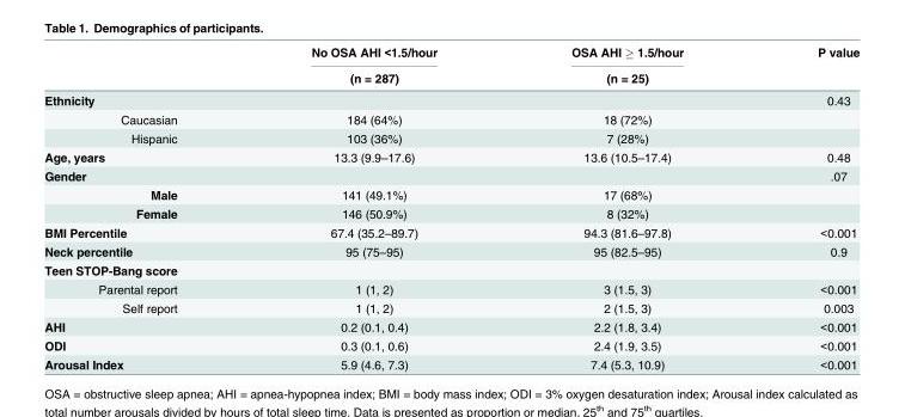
<table><thead><tr><td rowspan="2"></td><td rowspan="2">No OSA AHI &lt;1.5/hour (n = 287)</td><td rowspan="2">OSA AHI ≥ 1.5/hour (n = 25)</td><td rowspan="2">P value</td></tr><tr></tr></thead><tbody><tr><td>Ethnicity</td><td></td><td></td><td>0.43</td></tr><tr><td>Caucasian</td><td>184 (64%)</td><td>18 (72%)</td><td></td></tr><tr><td>Hispanic</td><td>103 (36%)</td><td>7 (28%)</td><td></td></tr><tr><td>Age, years</td><td>13.3 (9.9–17.6)</td><td>13.6 (10.5–17.4)</td><td>0.48</td></tr><tr><td>Gender</td><td></td><td></td><td>.07</td></tr><tr><td>Male</td><td>141 (49.1%)</td><td>17 (68%)</td><td></td></tr><tr><td>Female</td><td>146 (50.9%)</td><td>8 (32%)</td><td></td></tr><tr><td>BMI Percentile</td><td>67.4 (35.2–89.7)</td><td>94.3 (81.6–97.8)</td><td>&lt;0.001</td></tr><tr><td>Neck percentile</td><td>95 (75–95)</td><td>95 (82.5–95)</td><td>0.9</td></tr><tr><td colspan="4">Teen STOP-Bang score</td></tr><tr><td>Parental report</td><td>1 (1, 2)</td><td>3 (1.5, 3)</td><td>&lt;0.001</td></tr><tr><td>Self report</td><td>1 (1, 2)</td><td>2 (1.5, 3)</td><td>0.003</td></tr><tr><td>AHI</td><td>0.2 (0.1, 0.4)</td><td>2.2 (1.8, 3.4)</td><td>&lt;0.001</td></tr><tr><td>ODI</td><td>0.3 (0.1, 0.6)</td><td>2.4 (1.9, 3.5)</td><td>&lt;0.001</td></tr><tr><td>Arousal Index</td><td>5.9 (4.6, 7.3)</td><td>7.4 (5.3, 10.9)</td><td>&lt;0.001</td></tr></tbody></table>